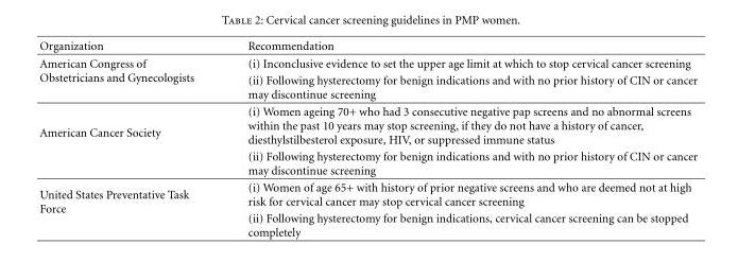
<table><thead><tr><td>Organization</td><td>Recommendation</td></tr></thead><tbody><tr><td rowspan="2">American Congress of Obstetricians and Gynecologists</td><td>(i) Inconclusive evidence to set the upper age limit at which to stop cervical cancer screening</td></tr><tr><td>(ii) Following hysterectomy for benign indications and with no prior history of CIN or cancer may discontinue screening</td></tr><tr><td rowspan="2">American Cancer Society</td><td>(i) Women ageing 70+ who had 3 consecutive negative pap screens and no abnormal screens within the past 10 years may stop screening, if they do not have a history of cancer, diesthylstilbesterol exposure, HIV, or suppressed immune status</td></tr><tr><td>(ii) Following hysterectomy for benign indications and with no prior history of CIN or cancer may discontinue screening</td></tr><tr><td rowspan="2">United States Preventative Task Force</td><td>(i) Women of age 65+ with history of prior negative screens and who are deemed not at high risk for cervical cancer may stop cervical cancer screening</td></tr><tr><td>(ii) Following hysterectomy for benign indications, cervical cancer screening can be stopped completely</td></tr></tbody></table>